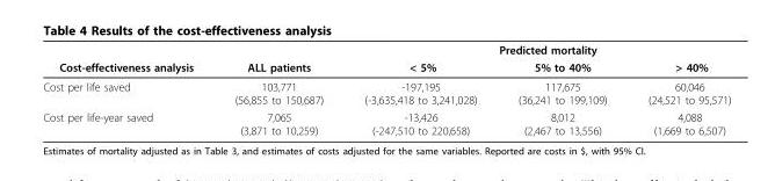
<table><thead><tr><td rowspan="2">Cost-effectiveness analysis</td><td rowspan="2">ALL patients</td><td colspan="3">Predicted mortality</td></tr><tr><td>&lt; 5%</td><td>5% to 40%</td><td>&gt; 40%</td></tr></thead><tbody><tr><td>Cost per life saved</td><td>103,771 (56,855 to 150,687)</td><td>-197,195 (-3,635,418 to 3,241,028)</td><td>117,675 (36,241 to 199,109)</td><td>60,046 (24,521 to 95,571)</td></tr><tr><td>Cost per life-year saved</td><td>7,065 (3,871 to 10,259)</td><td>-13,426 (-247,510 to 220,658)</td><td>8,012 (2,467 to 13,556)</td><td>4,088 (1,669 to 6,507)</td></tr></tbody></table>